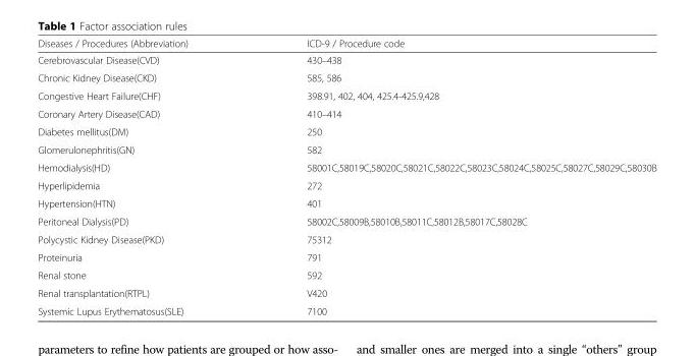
<table><thead><tr><td>Diseases / Procedures (Abbreviation)</td><td>ICD-9 / Procedure code</td></tr></thead><tbody><tr><td>Cerebrovascular Disease(CVD)</td><td>430–438</td></tr><tr><td>Chronic Kidney Disease(CKD)</td><td>585, 586</td></tr><tr><td>Congestive Heart Failure(CHF)</td><td>398.91, 402, 404, 425.4-425.9,428</td></tr><tr><td>Coronary Artery Disease(CAD)</td><td>410–414</td></tr><tr><td>Diabetes mellitus(DM)</td><td>250</td></tr><tr><td>Glomerulonephritis(GN)</td><td>582</td></tr><tr><td>Hemodialysis(HD)</td><td>58001C,58019C,58020C,58021C,58022C,58023C,58024C,58025C,58027C,58029C,58030B</td></tr><tr><td>Hyperlipidemia</td><td>272</td></tr><tr><td>Hypertension(HTN)</td><td>401</td></tr><tr><td>Peritoneal Dialysis(PD)</td><td>58002C,58009B,58010B,58011C,58012B,58017C,58028C</td></tr><tr><td>Polycystic Kidney Disease(PKD)</td><td>75312</td></tr><tr><td>Proteinuria</td><td>791</td></tr><tr><td>Renal stone</td><td>592</td></tr><tr><td>Renal transplantation(RTPL)</td><td>V420</td></tr><tr><td>Systemic Lupus Erythematosus(SLE)</td><td>7100</td></tr></tbody></table>